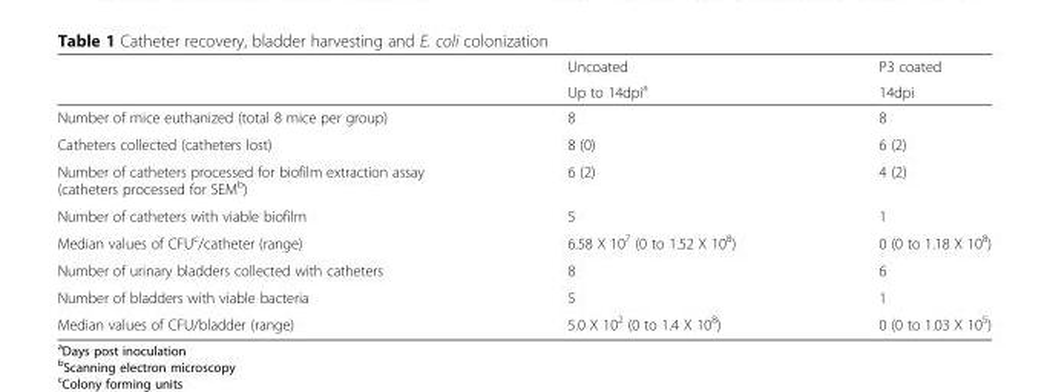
<table><thead><tr><td rowspan="2"></td><td rowspan="2">Uncoated Up to 14dpi<sup>a</sup></td><td rowspan="2">P3 coated 14dpi</td></tr><tr></tr></thead><tbody><tr><td>Number of mice euthanized (total 8 mice per group)</td><td>8</td><td>8</td></tr><tr><td>Catheters collected (catheters lost)</td><td>8 (0)</td><td>6 (2)</td></tr><tr><td>Number of catheters processed for biofilm extraction assay (catheters processed for SEM<sup>b</sup>)</td><td>6 (2)</td><td>4 (2)</td></tr><tr><td>Number of catheters with viable biofilm</td><td>5</td><td>1</td></tr><tr><td>Median values of CFU<sup>c</sup>/catheter (range)</td><td>6.58 X 10<sup>7</sup> (0 to 1.52 X 10<sup>8</sup>)</td><td>0 (0 to 1.18 X 10<sup>8</sup>)</td></tr><tr><td>Number of urinary bladders collected with catheters</td><td>8</td><td>6</td></tr><tr><td>Number of bladders with viable bacteria</td><td>5</td><td>1</td></tr><tr><td>Median values of CFU/bladder (range)</td><td>5.0 X 10<sup>2</sup> (0 to 1.4 X 10<sup>8</sup>)</td><td>0 (0 to 1.03 X 10<sup>5</sup>)</td></tr></tbody></table>